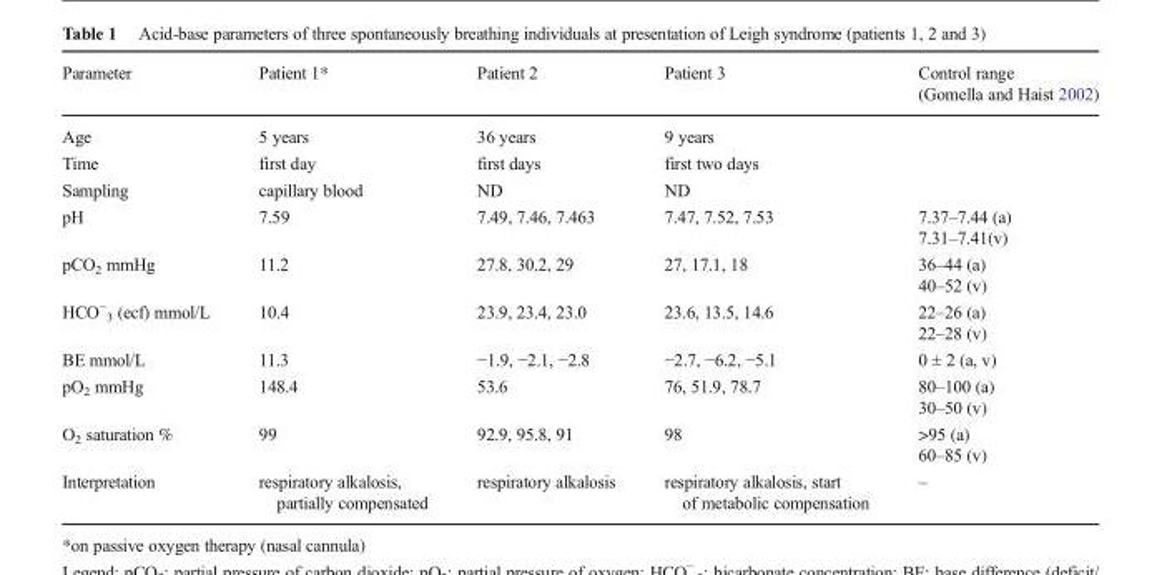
<table><thead><tr><td>Parameter</td><td>Patient 1*</td><td>Patient 2</td><td>Patient 3</td><td>Control range (Gomella and Haist 2002)</td></tr></thead><tbody><tr><td>Age</td><td>5 years</td><td>36 years</td><td>9 years</td><td></td></tr><tr><td>Time</td><td>first day</td><td>first days</td><td>first two days</td><td></td></tr><tr><td>Sampling</td><td>capillary blood</td><td>ND</td><td>ND</td><td></td></tr><tr><td>pH</td><td>7.59</td><td>7.49, 7.46, 7.463</td><td>7.47, 7.52, 7.53</td><td>7.37–7.44 (a) 7.31–7.41(v)</td></tr><tr><td>pCO<sub>2</sub> mmHg</td><td>11.2</td><td>27.8, 30.2, 29</td><td>27, 17.1, 18</td><td>36–44 (a) 40–52 (v)</td></tr><tr><td>HCO<sup>−</sup> <sub>3</sub> (ecf) mmol/L</td><td>10.4</td><td>23.9, 23.4, 23.0</td><td>23.6, 13.5, 14.6</td><td>22–26 (a) 22–28 (v)</td></tr><tr><td>BE mmol/L</td><td>11.3</td><td>−1.9, −2.1, −2.8</td><td>−2.7, −6.2, −5.1</td><td>0 ± 2 (a, v)</td></tr><tr><td>pO<sub>2</sub> mmHg</td><td>148.4</td><td>53.6</td><td>76, 51.9, 78.7</td><td>80–100 (a) 30–50 (v)</td></tr><tr><td>O<sub>2</sub> saturation %</td><td>99</td><td>92.9, 95.8, 91</td><td>98</td><td>&gt;95 (a) 60–85 (v)</td></tr><tr><td>Interpretation</td><td>respiratory alkalosis, partially compensated</td><td>respiratory alkalosis</td><td>respiratory alkalosis, start of metabolic compensation</td><td>–</td></tr></tbody></table>